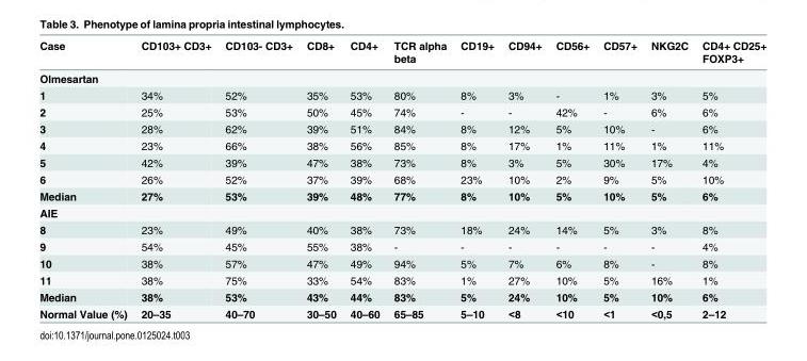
<table><thead><tr><td>Case</td><td>CD103+ CD3+</td><td>CD103- CD3+</td><td>CD8+</td><td>CD4+</td><td>TCR alpha beta</td><td>CD19+</td><td>CD94+</td><td>CD56+</td><td>CD57+</td><td>NKG2C</td><td>CD4+ CD25+ FOXP3+</td></tr></thead><tbody><tr><td colspan="12">Olmesartan</td></tr><tr><td>1</td><td>34%</td><td>52%</td><td>35%</td><td>53%</td><td>80%</td><td>8%</td><td>3%</td><td>-</td><td>1%</td><td>3%</td><td>5%</td></tr><tr><td>2</td><td>25%</td><td>53%</td><td>50%</td><td>45%</td><td>74%</td><td>-</td><td>-</td><td>42%</td><td>-</td><td>6%</td><td>6%</td></tr><tr><td>3</td><td>28%</td><td>62%</td><td>39%</td><td>51%</td><td>84%</td><td>8%</td><td>12%</td><td>5%</td><td>10%</td><td>-</td><td>6%</td></tr><tr><td>4</td><td>23%</td><td>66%</td><td>38%</td><td>56%</td><td>85%</td><td>8%</td><td>17%</td><td>1%</td><td>11%</td><td>1%</td><td>11%</td></tr><tr><td>5</td><td>42%</td><td>39%</td><td>47%</td><td>38%</td><td>73%</td><td>8%</td><td>3%</td><td>5%</td><td>30%</td><td>17%</td><td>4%</td></tr><tr><td>6</td><td>26%</td><td>52%</td><td>37%</td><td>39%</td><td>68%</td><td>23%</td><td>10%</td><td>2%</td><td>9%</td><td>5%</td><td>10%</td></tr><tr><td>Median</td><td>27%</td><td>53%</td><td>39%</td><td>48%</td><td>77%</td><td>8%</td><td>10%</td><td>5%</td><td>10%</td><td>5%</td><td>6%</td></tr><tr><td colspan="12">AIE</td></tr><tr><td>8</td><td>23%</td><td>49%</td><td>40%</td><td>38%</td><td>73%</td><td>18%</td><td>24%</td><td>14%</td><td>5%</td><td>3%</td><td>8%</td></tr><tr><td>9</td><td>54%</td><td>45%</td><td>55%</td><td>38%</td><td>-</td><td>-</td><td>-</td><td>-</td><td>-</td><td>-</td><td>4%</td></tr><tr><td>10</td><td>38%</td><td>57%</td><td>47%</td><td>49%</td><td>94%</td><td>5%</td><td>7%</td><td>6%</td><td>8%</td><td>-</td><td>8%</td></tr><tr><td>11</td><td>38%</td><td>75%</td><td>33%</td><td>54%</td><td>83%</td><td>1%</td><td>27%</td><td>10%</td><td>5%</td><td>16%</td><td>1%</td></tr><tr><td>Median</td><td>38%</td><td>53%</td><td>43%</td><td>44%</td><td>83%</td><td>5%</td><td>24%</td><td>10%</td><td>5%</td><td>10%</td><td>6%</td></tr><tr><td>Normal Value (%)</td><td>20–35</td><td>40–70</td><td>30–50</td><td>40–60</td><td>65–85</td><td>5–10</td><td>&lt;8</td><td>&lt;10</td><td>&lt;1</td><td>&lt;0,5</td><td>2–12</td></tr></tbody></table>